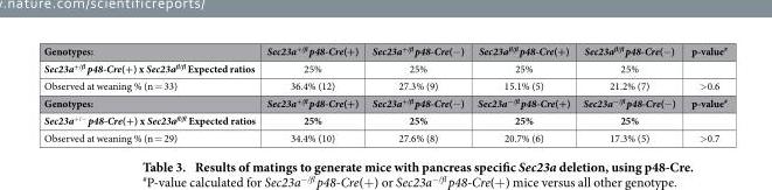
<table><thead><tr><td>Genotypes:</td><td>Sec23a<sup>+/fl</sup> p48-Cre(+)</td><td>Sec23a<sup>+/fl</sup> p48-Cre(− )</td><td>Sec23a<sup>fl/fl</sup> p48-Cre(+)</td><td>Sec23a<sup>fl/fl</sup> p48-Cre(− )</td><td>p-value<sup>#</sup></td></tr></thead><tbody><tr><td>Sec23a<sup>+/fl</sup> p48-Cre(+) x Sec23a<sup>fl/fl</sup> Expected ratios</td><td>25%</td><td>25%</td><td>25%</td><td>25%</td><td></td></tr><tr><td>Observed at weaning % (n = 33)</td><td>36.4% (12)</td><td>27.3% (9)</td><td>15.1% (5)</td><td>21.2% (7)</td><td>&gt; 0.6</td></tr><tr><td>Genotypes:</td><td>Sec23a<sup>+/fl</sup> p48-Cre(+)</td><td>Sec23a<sup>+/fl</sup> p48-Cre(− )</td><td>Sec23a<sup>−/fl</sup> p48-Cre(+)</td><td>Sec23a<sup>−/fl</sup> p48-Cre(− )</td><td>p-value<sup>#</sup></td></tr><tr><td>Sec23a<sup>+/−</sup> p48-Cre(+) x Sec23a<sup>fl/fl</sup> Expected ratios</td><td>25%</td><td>25%</td><td>25%</td><td>25%</td><td></td></tr><tr><td>Observed at weaning % (n = 29)</td><td>34.4% (10)</td><td>27.6% (8)</td><td>20.7% (6)</td><td>17.3% (5)</td><td>&gt; 0.7</td></tr></tbody></table>